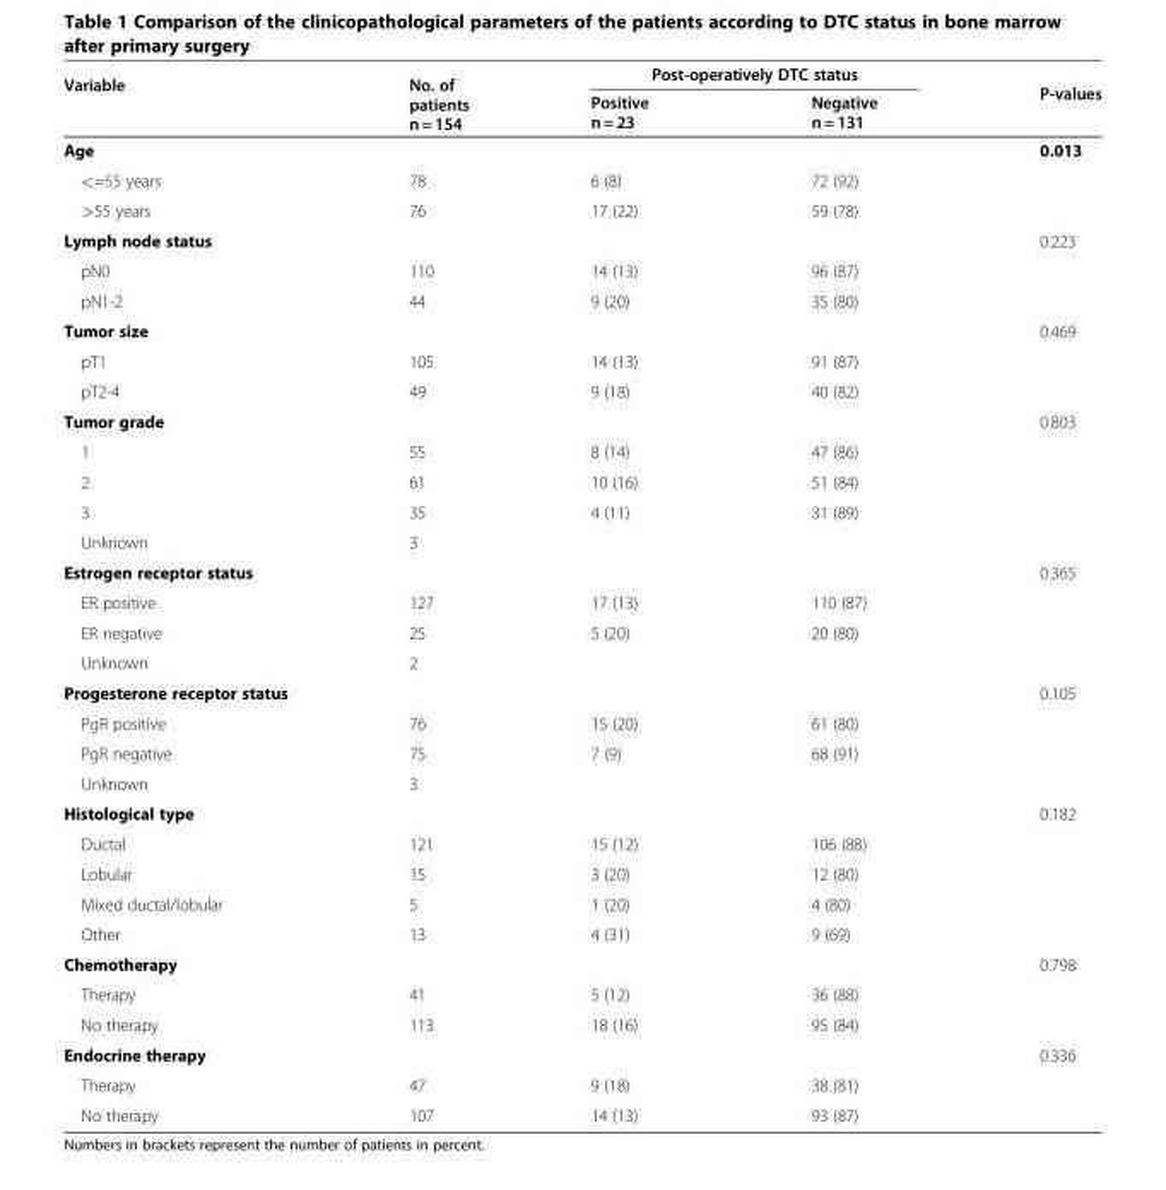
<table><thead><tr><td rowspan="2">Variable</td><td rowspan="2">No. of patients n = 154</td><td colspan="2">Post-operatively DTC status</td><td rowspan="2">P-values</td></tr><tr><td>Positive n = 23</td><td>Negative n = 131</td></tr></thead><tbody><tr><td>Age</td><td></td><td></td><td></td><td>0.013</td></tr><tr><td>&lt;=55 years</td><td>78</td><td>6 (8)</td><td>72 (92)</td><td></td></tr><tr><td>&gt;55 years</td><td>76</td><td>17 (22)</td><td>59 (78)</td><td></td></tr><tr><td>Lymph node status</td><td></td><td></td><td></td><td>0.223</td></tr><tr><td>pN0</td><td>110</td><td>14 (13)</td><td>96 (87)</td><td></td></tr><tr><td>pN1-2</td><td>44</td><td>9 (20)</td><td>35 (80)</td><td></td></tr><tr><td>Tumor size</td><td></td><td></td><td></td><td>0.469</td></tr><tr><td>pT1</td><td>105</td><td>14 (13)</td><td>91 (87)</td><td></td></tr><tr><td>pT2-4</td><td>49</td><td>9 (18)</td><td>40 (82)</td><td></td></tr><tr><td>Tumor grade</td><td></td><td></td><td></td><td>0.803</td></tr><tr><td>1</td><td>55</td><td>8 (14)</td><td>47 (86)</td><td></td></tr><tr><td>2</td><td>61</td><td>10 (16)</td><td>51 (84)</td><td></td></tr><tr><td>3</td><td>35</td><td>4 (11)</td><td>31 (89)</td><td></td></tr><tr><td>Unknown</td><td>3</td><td></td><td></td><td></td></tr><tr><td>Estrogen receptor status</td><td></td><td></td><td></td><td>0.365</td></tr><tr><td>ER positive</td><td>127</td><td>17 (13)</td><td>110 (87)</td><td></td></tr><tr><td>ER negative</td><td>25</td><td>5 (20)</td><td>20 (80)</td><td></td></tr><tr><td>Unknown</td><td>2</td><td></td><td></td><td></td></tr><tr><td>Progesterone receptor status</td><td></td><td></td><td></td><td>0.105</td></tr><tr><td>PgR positive</td><td>76</td><td>15 (20)</td><td>61 (80)</td><td></td></tr><tr><td>PgR negative</td><td>75</td><td>7 (9)</td><td>68 (91)</td><td></td></tr><tr><td>Unknown</td><td>3</td><td></td><td></td><td></td></tr><tr><td>Histological type</td><td></td><td></td><td></td><td>0.182</td></tr><tr><td>Ductal</td><td>121</td><td>15 (12)</td><td>106 (88)</td><td></td></tr><tr><td>Lobular</td><td>15</td><td>3 (20)</td><td>12 (80)</td><td></td></tr><tr><td>Mixed ductal/lobular</td><td>5</td><td>1 (20)</td><td>4 (80)</td><td></td></tr><tr><td>Other</td><td>13</td><td>4 (31)</td><td>9 (69)</td><td></td></tr><tr><td>Chemotherapy</td><td></td><td></td><td></td><td>0.798</td></tr><tr><td>Therapy</td><td>41</td><td>5 (12)</td><td>36 (88)</td><td></td></tr><tr><td>No therapy</td><td>113</td><td>18 (16)</td><td>95 (84)</td><td></td></tr><tr><td>Endocrine therapy</td><td></td><td></td><td></td><td>0.336</td></tr><tr><td>Therapy</td><td>47</td><td>9 (18)</td><td>38 (81)</td><td></td></tr><tr><td>No therapy</td><td>107</td><td>14 (13)</td><td>93 (87)</td><td></td></tr></tbody></table>